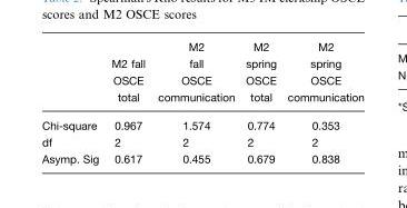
<table><thead><tr><td></td><td>M2 fall OSCE total</td><td>M2 fall OSCE communication</td><td>M2 spring OSCE total</td><td>M2 spring OSCE communication</td></tr></thead><tbody><tr><td>Chi-square</td><td>0.967</td><td>1.574</td><td>0.774</td><td>0.353</td></tr><tr><td>df</td><td>2</td><td>2</td><td>2</td><td>2</td></tr><tr><td>Asymp. Sig</td><td>0.617</td><td>0.455</td><td>0.679</td><td>0.838</td></tr></tbody></table>